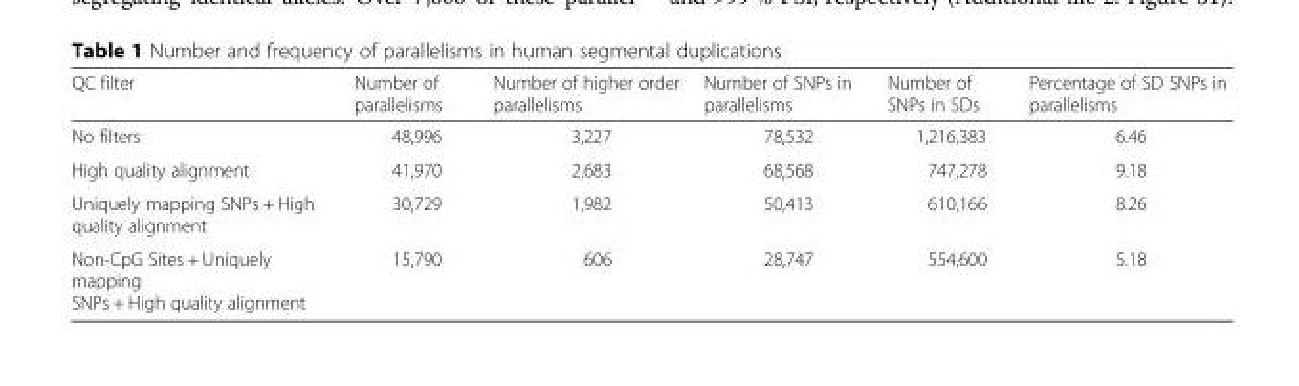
<table><thead><tr><td>QC filter</td><td>Number of parallelisms</td><td>Number of higher order parallelisms</td><td>Number of SNPs in parallelisms</td><td>Number of SNPs in SDs</td><td>Percentage of SD SNPs in parallelisms</td></tr></thead><tbody><tr><td>No filters</td><td>48,996</td><td>3,227</td><td>78,532</td><td>1,216,383</td><td>6.46</td></tr><tr><td>High quality alignment</td><td>41,970</td><td>2,683</td><td>68,568</td><td>747,278</td><td>9.18</td></tr><tr><td>Uniquely mapping SNPs + High quality alignment</td><td>30,729</td><td>1,982</td><td>50,413</td><td>610,166</td><td>8.26</td></tr><tr><td>Non-CpG Sites + Uniquely mapping SNPs + High quality alignment</td><td>15,790</td><td>606</td><td>28,747</td><td>554,600</td><td>5.18</td></tr></tbody></table>